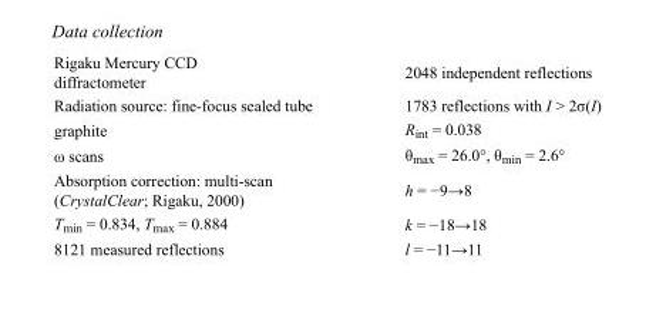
<table><tbody><tr><td>Rigaku Mercury CCD diffractometer</td><td>2048 independent reflections</td></tr><tr><td>Radiation source: fine-focus sealed tube</td><td>1783 reflections with I &gt; 2σ(I)</td></tr><tr><td>graphite</td><td>R<sub>int</sub> = 0.038</td></tr><tr><td>ω scans</td><td>θ<sub>max</sub> = 26.0°, θ<sub>min</sub> = 2.6°</td></tr><tr><td>Absorption correction: multi-scan (CrystalClear; Rigaku, 2000)</td><td>h = −9→8</td></tr><tr><td>T<sub>min</sub> = 0.834, T<sub>max</sub> = 0.884</td><td>k = −18→18</td></tr><tr><td>8121 measured reflections</td><td>l = −11→11</td></tr></tbody></table>